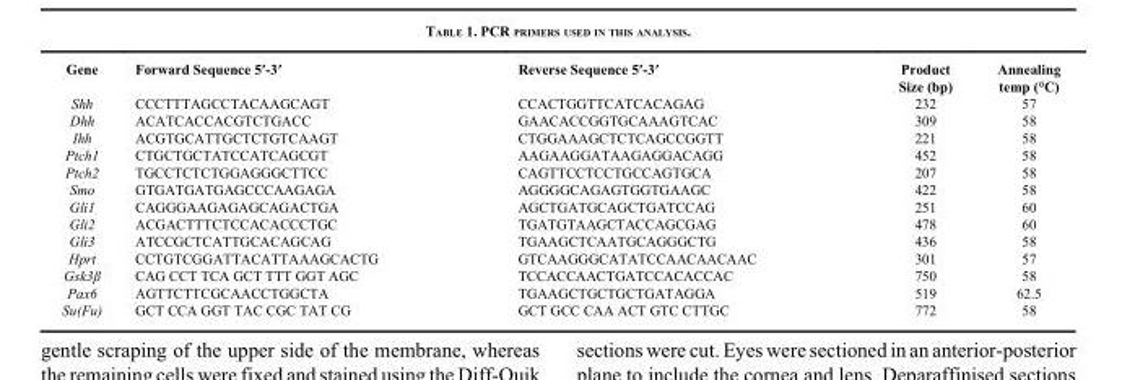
<table><thead><tr><td>Gene</td><td>Forward Sequence 5′-3′</td><td>Reverse Sequence 5′-3′</td><td>Product Size (bp)</td><td>Annealing temp (°C)</td></tr></thead><tbody><tr><td>Shh</td><td>CCCTTTAGCCTACAAGCAGT</td><td>CCACTGGTTCATCACAGAG</td><td>232</td><td>57</td></tr><tr><td>Dhh</td><td>ACATCACCACGTCTGACC</td><td>GAACACCGGTGCAAAGTCAC</td><td>309</td><td>58</td></tr><tr><td>Ihh</td><td>ACGTGCATTGCTCTGTCAAGT</td><td>CTGGAAAGCTCTCAGCCGGTT</td><td>221</td><td>58</td></tr><tr><td>Ptch1</td><td>CTGCTGCTATCCATCAGCGT</td><td>AAGAAGGATAAGAGGACAGG</td><td>452</td><td>58</td></tr><tr><td>Ptch2</td><td>TGCCTCTCTGGAGGGCTTCC</td><td>CAGTTCCTCCTGCCAGTGCA</td><td>207</td><td>58</td></tr><tr><td>Smo</td><td>GTGATGATGAGCCCAAGAGA</td><td>AGGGGCAGAGTGGTGAAGC</td><td>422</td><td>58</td></tr><tr><td>Gli1</td><td>CAGGGAAGAGAGCAGACTGA</td><td>AGCTGATGCAGCTGATCCAG</td><td>251</td><td>60</td></tr><tr><td>Gli2</td><td>ACGACTTTCTCCACACCCTGC</td><td>TGATGTAAGCTACCAGCGAG</td><td>478</td><td>60</td></tr><tr><td>Gli3</td><td>ATCCGCTCATTGCACAGCAG</td><td>TGAAGCTCAATGCAGGGCTG</td><td>436</td><td>58</td></tr><tr><td>Hprt</td><td>CCTGTCGGATTACATTAAAGCACTG</td><td>GTCAAGGGCATATCCAACAACAAC</td><td>301</td><td>57</td></tr><tr><td>Gsk3β</td><td>CAG CCT TCA GCT TTT GGT AGC</td><td>TCCACCAACTGATCCACACCAC</td><td>750</td><td>58</td></tr><tr><td>Pax6</td><td>AGTTCTTCGCAACCTGGCTA</td><td>TGAAGCTGCTGCTGATAGGA</td><td>519</td><td>62.5</td></tr><tr><td>Su(Fu)</td><td>GCT CCA GGT TAC CGC TAT CG</td><td>GCT GCC CAA ACT GTC CTTGC</td><td>772</td><td>58</td></tr></tbody></table>